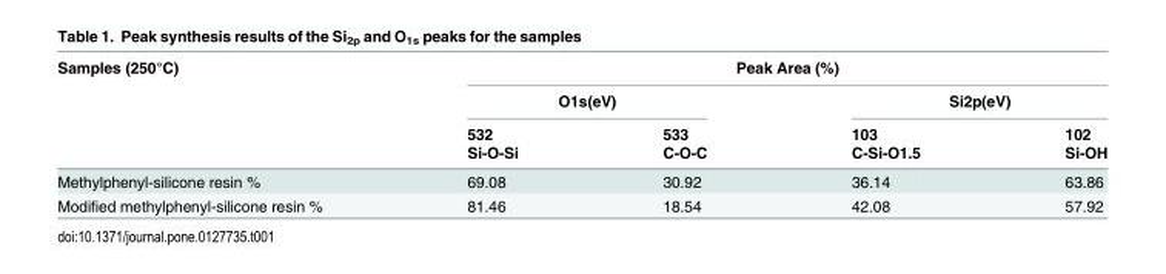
<table><thead><tr><td rowspan="4">Samples (250°C)</td><td colspan="4">Peak Area (%)</td></tr><tr><td colspan="2">O1s(eV)</td><td colspan="2">Si2p(eV)</td></tr><tr><td rowspan="2">532 Si-O-Si</td><td rowspan="2">533 C-O-C</td><td rowspan="2">103 C-Si-O1.5</td><td rowspan="2">102 Si-OH</td></tr><tr></tr></thead><tbody><tr><td>Methylphenyl-silicone resin %</td><td>69.08</td><td>30.92</td><td>36.14</td><td>63.86</td></tr><tr><td>Modified methylphenyl-silicone resin %</td><td>81.46</td><td>18.54</td><td>42.08</td><td>57.92</td></tr></tbody></table>